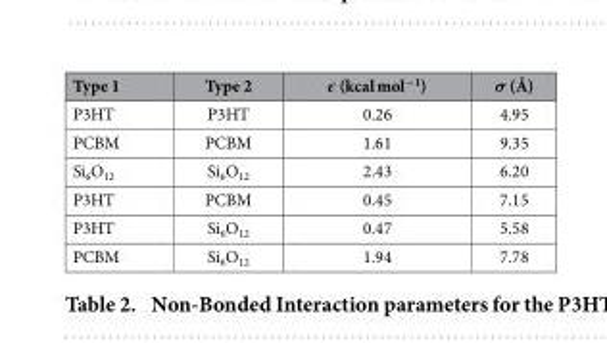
<table><thead><tr><td>Type 1</td><td>Type 2</td><td>ϵ (kcal mol<sup>−1</sup>)</td><td>σ (Å)</td></tr></thead><tbody><tr><td>P3HT</td><td>P3HT</td><td>0.26</td><td>4.95</td></tr><tr><td>PCBM</td><td>PCBM</td><td>1.61</td><td>9.35</td></tr><tr><td>Si<sub>6</sub>O<sub>12</sub></td><td>Si<sub>6</sub>O<sub>12</sub></td><td>2.43</td><td>6.20</td></tr><tr><td>P3HT</td><td>PCBM</td><td>0.45</td><td>7.15</td></tr><tr><td>P3HT</td><td>Si<sub>6</sub>O<sub>12</sub></td><td>0.47</td><td>5.58</td></tr><tr><td>PCBM</td><td>Si<sub>6</sub>O<sub>12</sub></td><td>1.94</td><td>7.78</td></tr></tbody></table>